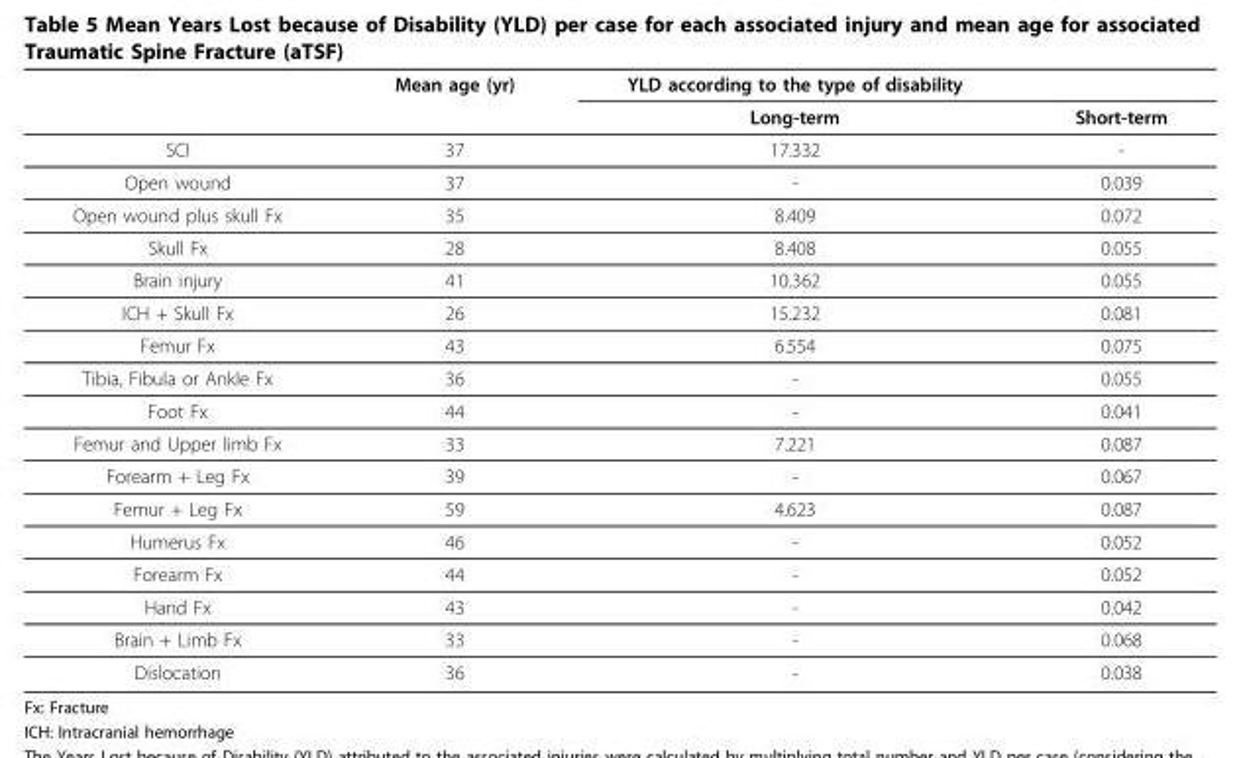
<table><thead><tr><td rowspan="2"></td><td rowspan="2">Mean age (yr)</td><td rowspan="2">YLD according to the type of disability Long-term</td><td rowspan="2">Short-term</td></tr><tr></tr></thead><tbody><tr><td>SCI</td><td>37</td><td>17.332</td><td>-</td></tr><tr><td>Open wound</td><td>37</td><td>-</td><td>0.039</td></tr><tr><td>Open wound plus skull Fx</td><td>35</td><td>8.409</td><td>0.072</td></tr><tr><td>Skull Fx</td><td>28</td><td>8.408</td><td>0.055</td></tr><tr><td>Brain injury</td><td>41</td><td>10.362</td><td>0.055</td></tr><tr><td>ICH + Skull Fx</td><td>26</td><td>15.232</td><td>0.081</td></tr><tr><td>Femur Fx</td><td>43</td><td>6.554</td><td>0.075</td></tr><tr><td>Tibia, Fibula or Ankle Fx</td><td>36</td><td>-</td><td>0.055</td></tr><tr><td>Foot Fx</td><td>44</td><td>-</td><td>0.041</td></tr><tr><td>Femur and Upper limb Fx</td><td>33</td><td>7.221</td><td>0.087</td></tr><tr><td>Forearm + Leg Fx</td><td>39</td><td>-</td><td>0.067</td></tr><tr><td>Femur + Leg Fx</td><td>59</td><td>4.623</td><td>0.087</td></tr><tr><td>Humerus Fx</td><td>46</td><td>-</td><td>0.052</td></tr><tr><td>Forearm Fx</td><td>44</td><td>-</td><td>0.052</td></tr><tr><td>Hand Fx</td><td>43</td><td>-</td><td>0.042</td></tr><tr><td>Brain + Limb Fx</td><td>33</td><td>-</td><td>0.068</td></tr><tr><td>Dislocation</td><td>36</td><td>-</td><td>0.038</td></tr></tbody></table>